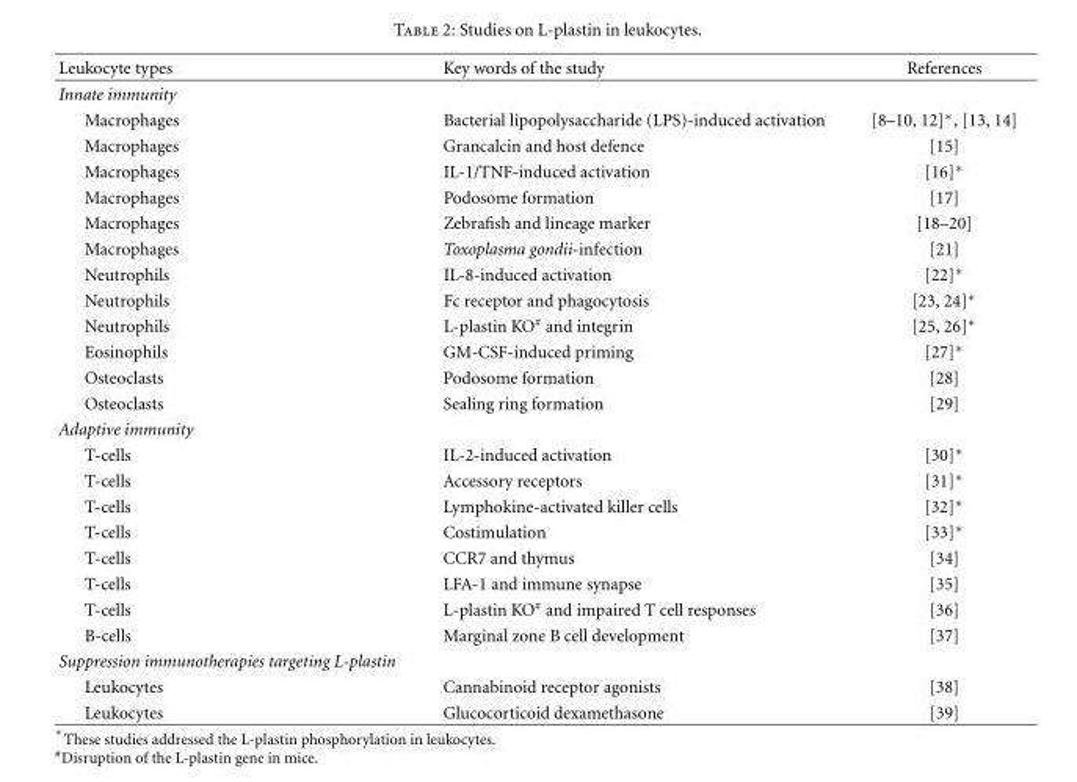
<table><thead><tr><td>Leukocyte types</td><td>Key words of the study</td><td>References</td></tr></thead><tbody><tr><td colspan="3">Innate immunity</td></tr><tr><td>Macrophages</td><td>Bacterial lipopolysaccharide (LPS)-induced activation</td><td>[8–10, 12]∗, [13, 14]</td></tr><tr><td>Macrophages</td><td>Grancalcin and host defence</td><td>[15]</td></tr><tr><td>Macrophages</td><td>IL-1/TNF-induced activation</td><td>[16]∗</td></tr><tr><td>Macrophages</td><td>Podosome formation</td><td>[17]</td></tr><tr><td>Macrophages</td><td>Zebrafish and lineage marker</td><td>[18–20]</td></tr><tr><td>Macrophages</td><td>Toxoplasma gondii-infection</td><td>[21]</td></tr><tr><td>Neutrophils</td><td>IL-8-induced activation</td><td>[22]∗</td></tr><tr><td>Neutrophils</td><td>Fc receptor and phagocytosis</td><td>[23, 24]∗</td></tr><tr><td>Neutrophils</td><td>L-plastin KO<sup>#</sup> and integrin</td><td>[25, 26]∗</td></tr><tr><td>Eosinophils</td><td>GM-CSF-induced priming</td><td>[27]∗</td></tr><tr><td>Osteoclasts</td><td>Podosome formation</td><td>[28]</td></tr><tr><td>Osteoclasts</td><td>Sealing ring formation</td><td>[29]</td></tr><tr><td colspan="3">Adaptive immunity</td></tr><tr><td>T-cells</td><td>IL-2-induced activation</td><td>[30]∗</td></tr><tr><td>T-cells</td><td>Accessory receptors</td><td>[31]∗</td></tr><tr><td>T-cells</td><td>Lymphokine-activated killer cells</td><td>[32]∗</td></tr><tr><td>T-cells</td><td>Costimulation</td><td>[33]∗</td></tr><tr><td>T-cells</td><td>CCR7 and thymus</td><td>[34]</td></tr><tr><td>T-cells</td><td>LFA-1 and immune synapse</td><td>[35]</td></tr><tr><td>T-cells</td><td>L-plastin KO<sup>#</sup> and impaired T cell responses</td><td>[36]</td></tr><tr><td>B-cells</td><td>Marginal zone B cell development</td><td>[37]</td></tr><tr><td colspan="3">Suppression immunotherapies targeting L-plastin</td></tr><tr><td>Leukocytes</td><td>Cannabinoid receptor agonists</td><td>[38]</td></tr><tr><td>Leukocytes</td><td>Glucocorticoid dexamethasone</td><td>[39]</td></tr></tbody></table>